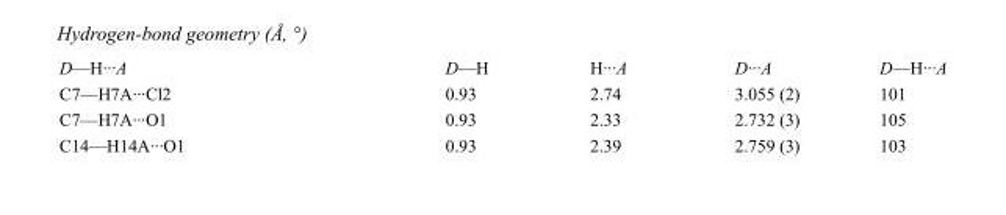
<table><tbody><tr><td>D—H···A</td><td>D—H</td><td>H···A</td><td>D···A</td><td>D—H···A</td></tr><tr><td>C7—H7A···Cl2</td><td>0.93</td><td>2.74</td><td>3.055 (2)</td><td>101</td></tr><tr><td>C7—H7A···O1</td><td>0.93</td><td>2.33</td><td>2.732 (3)</td><td>105</td></tr><tr><td>C14—H14A···O1</td><td>0.93</td><td>2.39</td><td>2.759 (3)</td><td>103</td></tr></tbody></table>